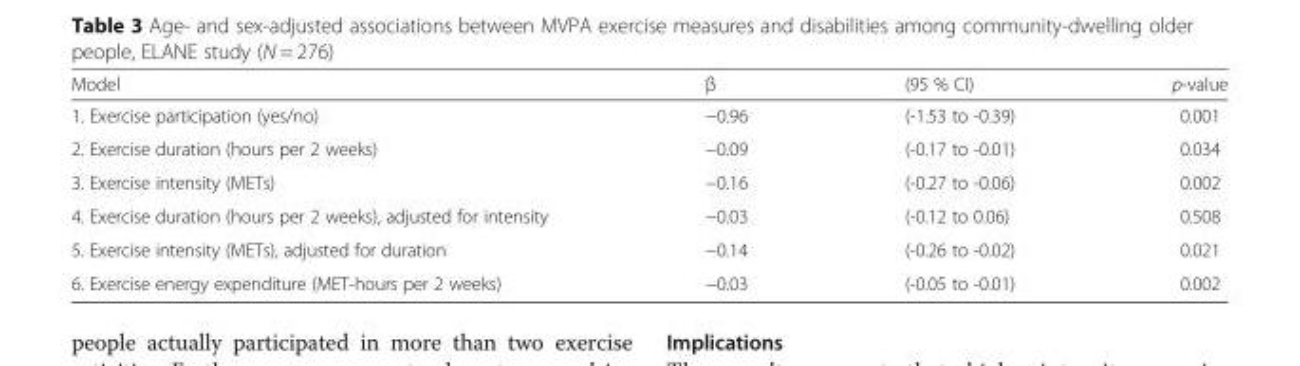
<table><thead><tr><td>Model</td><td>β</td><td>(95 % CI)</td><td>p-value</td></tr></thead><tbody><tr><td>1. Exercise participation (yes/no)</td><td>−0.96</td><td>(-1.53 to -0.39)</td><td>0.001</td></tr><tr><td>2. Exercise duration (hours per 2 weeks)</td><td>−0.09</td><td>(-0.17 to -0.01)</td><td>0.034</td></tr><tr><td>3. Exercise intensity (METs)</td><td>−0.16</td><td>(-0.27 to -0.06)</td><td>0.002</td></tr><tr><td>4. Exercise duration (hours per 2 weeks), adjusted for intensity</td><td>−0.03</td><td>(-0.12 to 0.06)</td><td>0.508</td></tr><tr><td>5. Exercise intensity (METs), adjusted for duration</td><td>−0.14</td><td>(-0.26 to -0.02)</td><td>0.021</td></tr><tr><td>6. Exercise energy expenditure (MET-hours per 2 weeks)</td><td>−0.03</td><td>(-0.05 to -0.01)</td><td>0.002</td></tr></tbody></table>